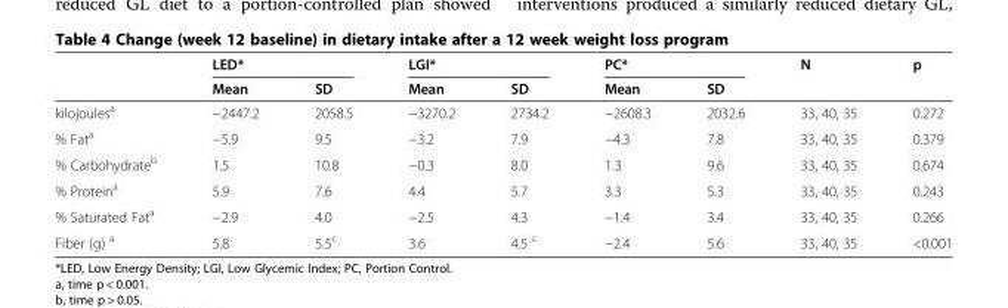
<table><thead><tr><td rowspan="2"></td><td rowspan="2">LED* Mean</td><td rowspan="2">SD</td><td rowspan="2">LGI* Mean</td><td rowspan="2">SD</td><td rowspan="2">PC* Mean</td><td rowspan="2">SD</td><td rowspan="2">N</td><td rowspan="2">p</td></tr><tr></tr></thead><tbody><tr><td>kilojoules<sup>a</sup></td><td>−2447.2</td><td>2058.5</td><td>−3270.2</td><td>2734.2</td><td>−2608.3</td><td>2032.6</td><td>33, 40, 35</td><td>0.272</td></tr><tr><td>% Fat<sup>a</sup></td><td>−5.9</td><td>9.5</td><td>−3.2</td><td>7.9</td><td>−4.3</td><td>7.8</td><td>33, 40, 35</td><td>0.379</td></tr><tr><td>% Carbohydrate<sup>b</sup></td><td>1.5</td><td>10.8</td><td>−0.3</td><td>8.0</td><td>1.3</td><td>9.6</td><td>33, 40, 35</td><td>0.674</td></tr><tr><td>% Protein<sup>a</sup></td><td>5.9</td><td>7.6</td><td>4.4</td><td>5.7</td><td>3.3</td><td>5.3</td><td>33, 40, 35</td><td>0.243</td></tr><tr><td>% Saturated Fat<sup>a</sup></td><td>−2.9</td><td>4.0</td><td>−2.5</td><td>4.3</td><td>−1.4</td><td>3.4</td><td>33, 40, 35</td><td>0.266</td></tr><tr><td>Fiber (g) <sup>a</sup></td><td>5.8</td><td>5.5<sup>c</sup></td><td>3.6</td><td>4.5 <sup>c</sup></td><td>−2.4</td><td>5.6</td><td>33, 40, 35</td><td>&lt;0.001</td></tr></tbody></table>